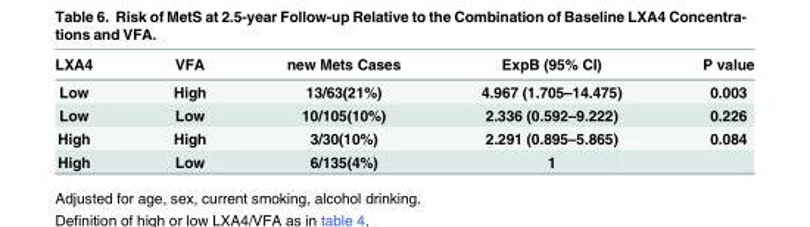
<table><thead><tr><td>LXA4</td><td>VFA</td><td>new Mets Cases</td><td>ExpB (95% CI)</td><td>P value</td></tr></thead><tbody><tr><td>Low</td><td>High</td><td>13/63(21%)</td><td>4.967 (1.705–14.475)</td><td>0.003</td></tr><tr><td>Low</td><td>Low</td><td>10/105(10%)</td><td>2.336 (0.592–9.222)</td><td>0.226</td></tr><tr><td>High</td><td>High</td><td>3/30(10%)</td><td>2.291 (0.895–5.865)</td><td>0.084</td></tr><tr><td>High</td><td>Low</td><td>6/135(4%)</td><td>1</td><td></td></tr></tbody></table>